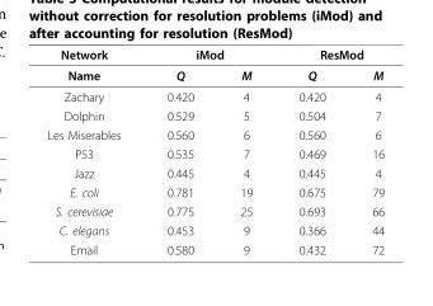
<table><thead><tr><td rowspan="2">Network Name</td><td colspan="2">iMod</td><td colspan="2">ResMod</td></tr><tr><td>Q</td><td>M</td><td>Q</td><td>M</td></tr></thead><tbody><tr><td>Zachary</td><td>0.420</td><td>4</td><td>0.420</td><td>4</td></tr><tr><td>Dolphin</td><td>0.529</td><td>5</td><td>0.504</td><td>7</td></tr><tr><td>Les Miserables</td><td>0.560</td><td>6</td><td>0.560</td><td>6</td></tr><tr><td>P53</td><td>0.535</td><td>7</td><td>0.469</td><td>16</td></tr><tr><td>Jazz</td><td>0.445</td><td>4</td><td>0.445</td><td>4</td></tr><tr><td>E. coli</td><td>0.781</td><td>19</td><td>0.675</td><td>79</td></tr><tr><td>S. cerevisiae</td><td>0.775</td><td>25</td><td>0.693</td><td>66</td></tr><tr><td>C. elegans</td><td>0.453</td><td>9</td><td>0.366</td><td>44</td></tr><tr><td>Email</td><td>0.580</td><td>9</td><td>0.432</td><td>72</td></tr></tbody></table>